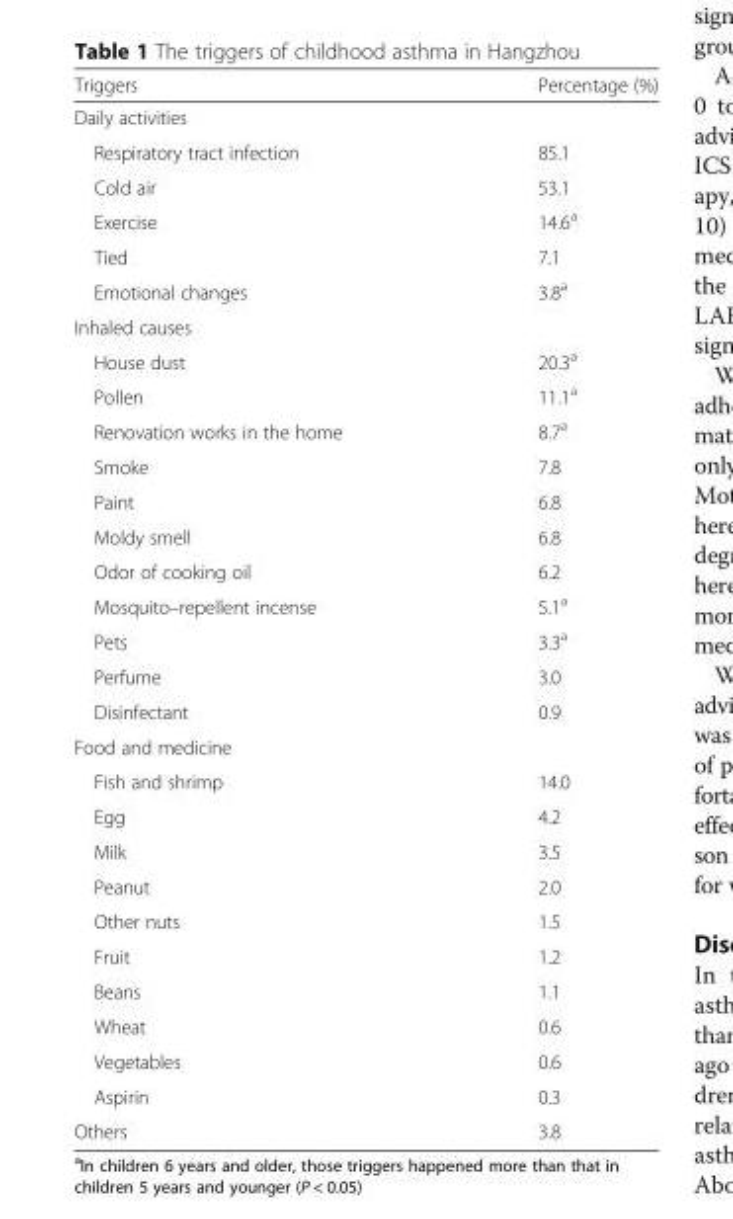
<table><thead><tr><td>Triggers</td><td>Percentage (%)</td></tr></thead><tbody><tr><td colspan="2">Daily activities</td></tr><tr><td>Respiratory tract infection</td><td>85.1</td></tr><tr><td>Cold air</td><td>53.1</td></tr><tr><td>Exercise</td><td>14.6<sup>a</sup></td></tr><tr><td>Tied</td><td>7.1</td></tr><tr><td>Emotional changes</td><td>3.8<sup>a</sup></td></tr><tr><td colspan="2">Inhaled causes</td></tr><tr><td>House dust</td><td>20.3<sup>a</sup></td></tr><tr><td>Pollen</td><td>11.1<sup>a</sup></td></tr><tr><td>Renovation works in the home</td><td>8.7<sup>a</sup></td></tr><tr><td>Smoke</td><td>7.8</td></tr><tr><td>Paint</td><td>6.8</td></tr><tr><td>Moldy smell</td><td>6.8</td></tr><tr><td>Odor of cooking oil</td><td>6.2</td></tr><tr><td>Mosquito–repellent incense</td><td>5.1<sup>a</sup></td></tr><tr><td>Pets</td><td>3.3<sup>a</sup></td></tr><tr><td>Perfume</td><td>3.0</td></tr><tr><td>Disinfectant</td><td>0.9</td></tr><tr><td colspan="2">Food and medicine</td></tr><tr><td>Fish and shrimp</td><td>14.0</td></tr><tr><td>Egg</td><td>4.2</td></tr><tr><td>Milk</td><td>3.5</td></tr><tr><td>Peanut</td><td>2.0</td></tr><tr><td>Other nuts</td><td>1.5</td></tr><tr><td>Fruit</td><td>1.2</td></tr><tr><td>Beans</td><td>1.1</td></tr><tr><td>Wheat</td><td>0.6</td></tr><tr><td>Vegetables</td><td>0.6</td></tr><tr><td>Aspirin</td><td>0.3</td></tr><tr><td>Others</td><td>3.8</td></tr></tbody></table>